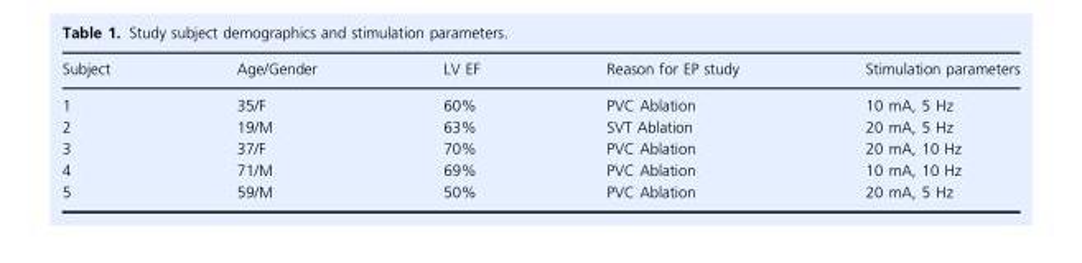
<table><thead><tr><td>Subject</td><td>Age/Gender</td><td>LV EF</td><td>Reason for EP study</td><td>Stimulation parameters</td></tr></thead><tbody><tr><td>1</td><td>35/F</td><td>60%</td><td>PVC Ablation</td><td>10 mA, 5 Hz</td></tr><tr><td>2</td><td>19/M</td><td>63%</td><td>SVT Ablation</td><td>20 mA, 5 Hz</td></tr><tr><td>3</td><td>37/F</td><td>70%</td><td>PVC Ablation</td><td>20 mA, 10 Hz</td></tr><tr><td>4</td><td>71/M</td><td>69%</td><td>PVC Ablation</td><td>10 mA, 10 Hz</td></tr><tr><td>5</td><td>59/M</td><td>50%</td><td>PVC Ablation</td><td>20 mA, 5 Hz</td></tr></tbody></table>